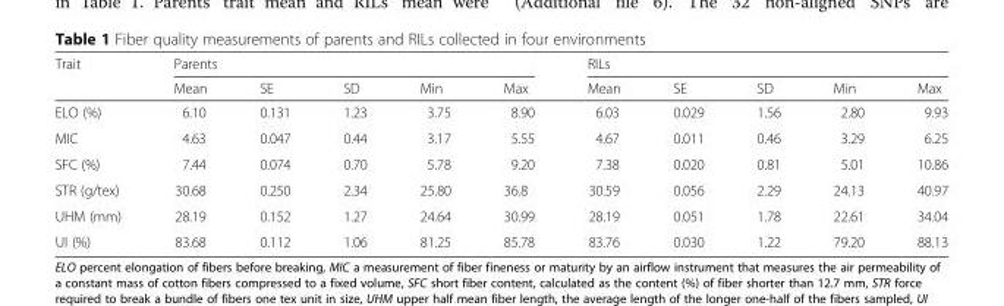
<table><thead><tr><td rowspan="2">Trait</td><td colspan="5">Parents</td><td colspan="5">RILs</td></tr><tr><td>Mean</td><td>SE</td><td>SD</td><td>Min</td><td>Max</td><td>Mean</td><td>SE</td><td>SD</td><td>Min</td><td>Max</td></tr></thead><tbody><tr><td>ELO (%)</td><td>6.10</td><td>0.131</td><td>1.23</td><td>3.75</td><td>8.90</td><td>6.03</td><td>0.029</td><td>1.56</td><td>2.80</td><td>9.93</td></tr><tr><td>MIC</td><td>4.63</td><td>0.047</td><td>0.44</td><td>3.17</td><td>5.55</td><td>4.67</td><td>0.011</td><td>0.46</td><td>3.29</td><td>6.25</td></tr><tr><td>SFC (%)</td><td>7.44</td><td>0.074</td><td>0.70</td><td>5.78</td><td>9.20</td><td>7.38</td><td>0.020</td><td>0.81</td><td>5.01</td><td>10.86</td></tr><tr><td>STR (g/tex)</td><td>30.68</td><td>0.250</td><td>2.34</td><td>25.80</td><td>36.8</td><td>30.59</td><td>0.056</td><td>2.29</td><td>24.13</td><td>40.97</td></tr><tr><td>UHM (mm)</td><td>28.19</td><td>0.152</td><td>1.27</td><td>24.64</td><td>30.99</td><td>28.19</td><td>0.051</td><td>1.78</td><td>22.61</td><td>34.04</td></tr><tr><td>UI (%)</td><td>83.68</td><td>0.112</td><td>1.06</td><td>81.25</td><td>85.78</td><td>83.76</td><td>0.030</td><td>1.22</td><td>79.20</td><td>88.13</td></tr></tbody></table>